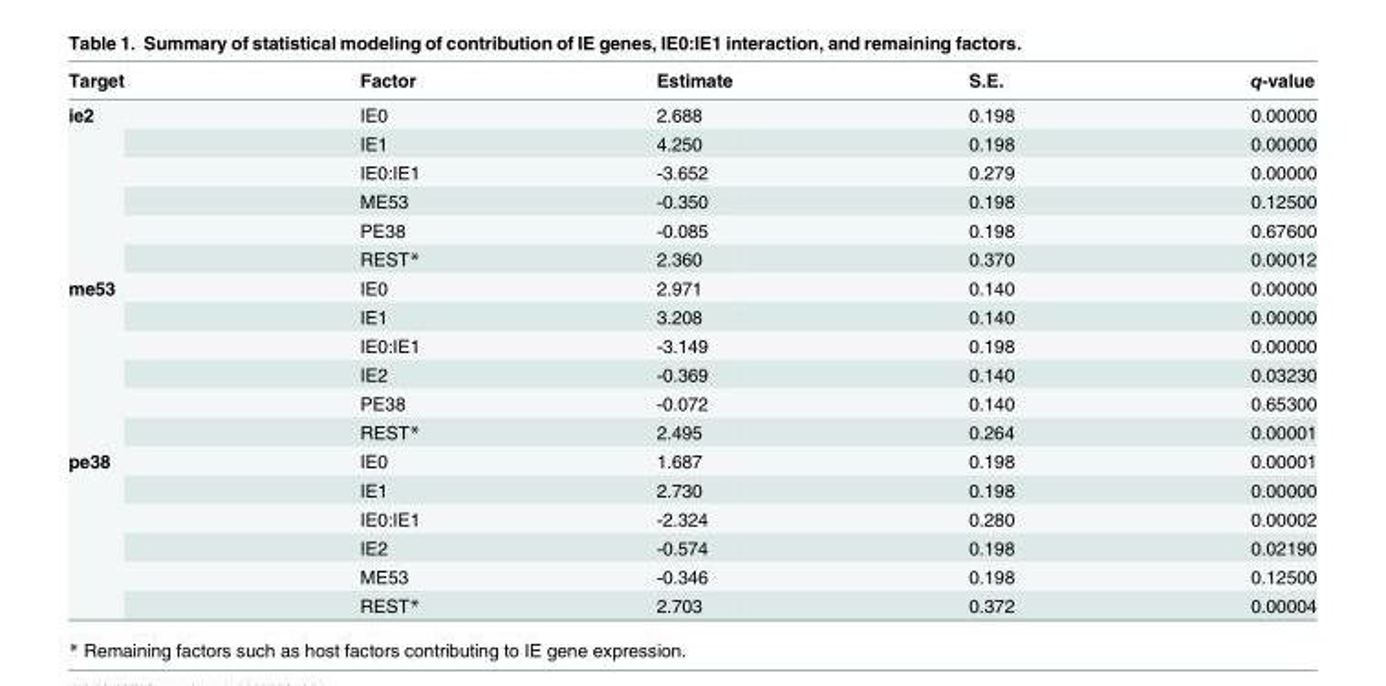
<table><thead><tr><td>Target</td><td>Factor</td><td>Estimate</td><td>S.E.</td><td>q-value</td></tr></thead><tbody><tr><td rowspan="6">ie2</td><td>IE0</td><td>2.688</td><td>0.198</td><td>0.00000</td></tr><tr><td>IE1</td><td>4.250</td><td>0.198</td><td>0.00000</td></tr><tr><td>IE0:IE1</td><td>-3.652</td><td>0.279</td><td>0.00000</td></tr><tr><td>ME53</td><td>-0.350</td><td>0.198</td><td>0.12500</td></tr><tr><td>PE38</td><td>-0.085</td><td>0.198</td><td>0.67600</td></tr><tr><td>REST*</td><td>2.360</td><td>0.370</td><td>0.00012</td></tr><tr><td rowspan="6">me53</td><td>IE0</td><td>2.971</td><td>0.140</td><td>0.00000</td></tr><tr><td>IE1</td><td>3.208</td><td>0.140</td><td>0.00000</td></tr><tr><td>IE0:IE1</td><td>-3.149</td><td>0.198</td><td>0.00000</td></tr><tr><td>IE2</td><td>-0.369</td><td>0.140</td><td>0.03230</td></tr><tr><td>PE38</td><td>-0.072</td><td>0.140</td><td>0.65300</td></tr><tr><td>REST*</td><td>2.495</td><td>0.264</td><td>0.00001</td></tr><tr><td rowspan="6">pe38</td><td>IE0</td><td>1.687</td><td>0.198</td><td>0.00001</td></tr><tr><td>IE1</td><td>2.730</td><td>0.198</td><td>0.00000</td></tr><tr><td>IE0:IE1</td><td>-2.324</td><td>0.280</td><td>0.00002</td></tr><tr><td>IE2</td><td>-0.574</td><td>0.198</td><td>0.02190</td></tr><tr><td>ME53</td><td>-0.346</td><td>0.198</td><td>0.12500</td></tr><tr><td>REST*</td><td>2.703</td><td>0.372</td><td>0.00004</td></tr></tbody></table>